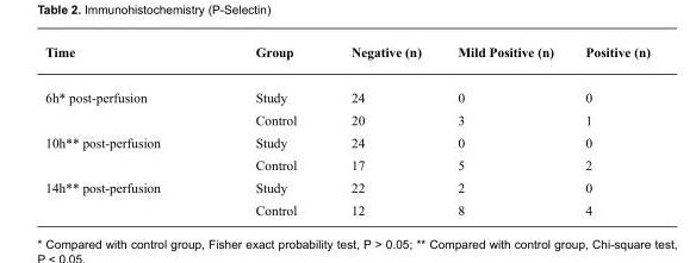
<table><thead><tr><td>Time</td><td>Group</td><td>Negative (n)</td><td>Mild Positive (n)</td><td>Positive (n)</td></tr></thead><tbody><tr><td rowspan="2">6h* post-perfusion</td><td>Study</td><td>24</td><td>0</td><td>0</td></tr><tr><td>Control</td><td>20</td><td>3</td><td>1</td></tr><tr><td rowspan="2">10h** post-perfusion</td><td>Study</td><td>24</td><td>0</td><td>0</td></tr><tr><td>Control</td><td>17</td><td>5</td><td>2</td></tr><tr><td rowspan="2">14h** post-perfusion</td><td>Study</td><td>22</td><td>2</td><td>0</td></tr><tr><td>Control</td><td>12</td><td>8</td><td>4</td></tr></tbody></table>